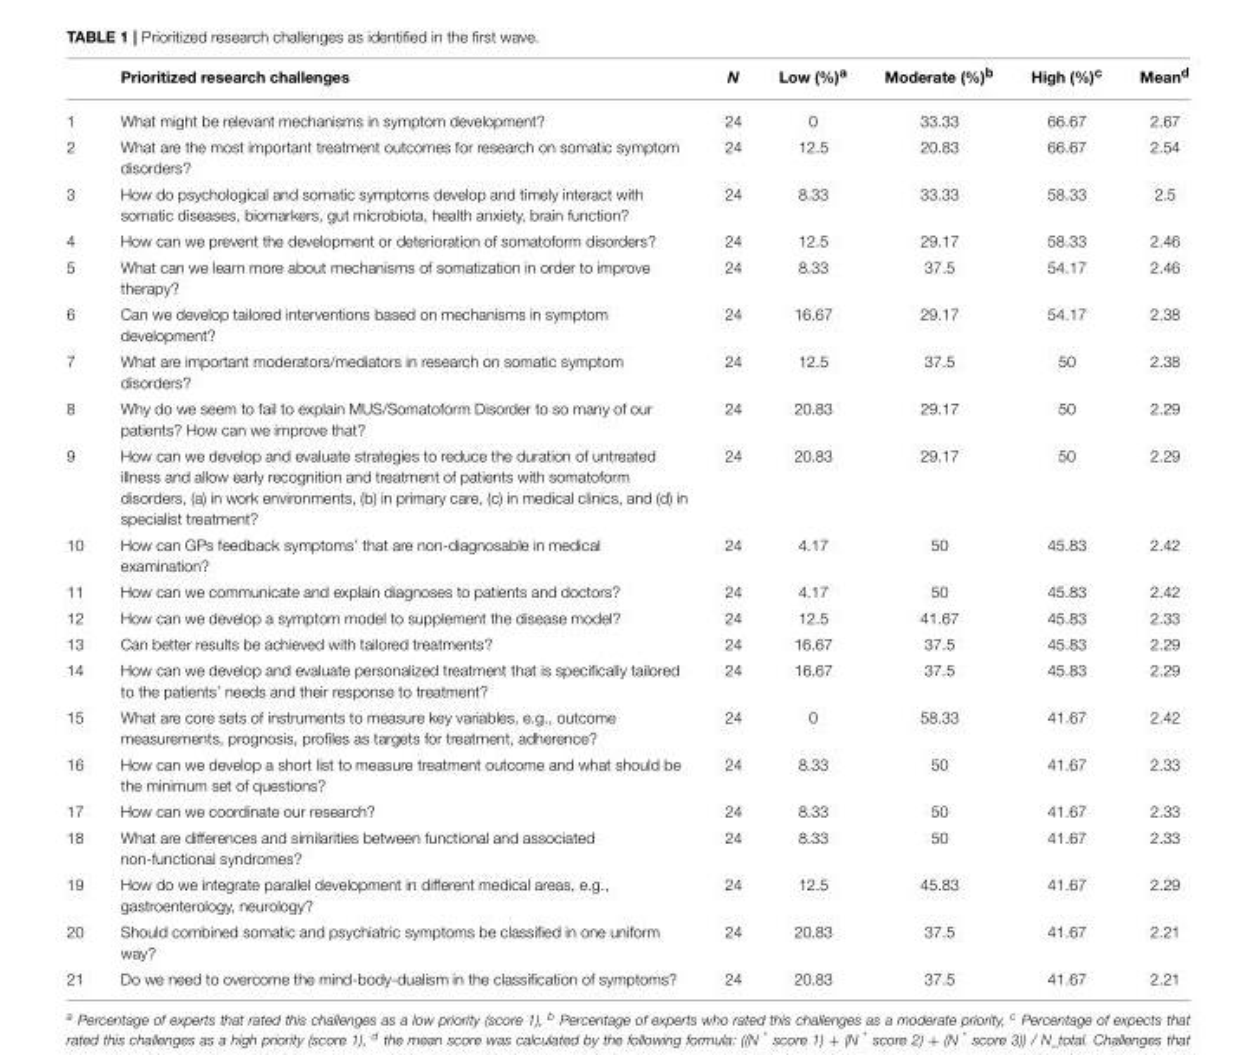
<table><thead><tr><td></td><td>Prioritized research challenges</td><td>N</td><td>Low (%)<sup>a</sup></td><td>Moderate (%)<sup>b</sup></td><td>High (%)<sup>c</sup></td><td>Mean<sup>d</sup></td></tr></thead><tbody><tr><td>1</td><td>What might be relevant mechanisms in symptom development?</td><td>24</td><td>0</td><td>33.33</td><td>66.67</td><td>2.67</td></tr><tr><td>2</td><td>What are the most important treatment outcomes for research on somatic symptom disorders?</td><td>24</td><td>12.5</td><td>20.83</td><td>66.67</td><td>2.54</td></tr><tr><td>3</td><td>How do psychological and somatic symptoms develop and timely interact with somatic diseases, biomarkers, gut microbiota, health anxiety, brain function?</td><td>24</td><td>8.33</td><td>33.33</td><td>58.33</td><td>2.5</td></tr><tr><td>4</td><td>How can we prevent the development or deterioration of somatoform disorders?</td><td>24</td><td>12.5</td><td>29.17</td><td>58.33</td><td>2.46</td></tr><tr><td>5</td><td>What can we learn more about mechanisms of somatization in order to improve therapy?</td><td>24</td><td>8.33</td><td>37.5</td><td>54.17</td><td>2.46</td></tr><tr><td>6</td><td>Can we develop tailored interventions based on mechanisms in symptom development?</td><td>24</td><td>16.67</td><td>29.17</td><td>54.17</td><td>2.38</td></tr><tr><td>7</td><td>What are important moderators/mediators in research on somatic symptom disorders?</td><td>24</td><td>12.5</td><td>37.5</td><td>50</td><td>2.38</td></tr><tr><td>8</td><td>Why do we seem to fail to explain MUS/Somatoform Disorder to so many of our patients? How can we improve that?</td><td>24</td><td>20.83</td><td>29.17</td><td>50</td><td>2.29</td></tr><tr><td>9</td><td>How can we develop and evaluate strategies to reduce the duration of untreated illness and allow early recognition and treatment of patients with somatoform disorders, (a) in work environments, (b) in primary care, (c) in medical clinics, and (d) in specialist treatment?</td><td>24</td><td>20.83</td><td>29.17</td><td>50</td><td>2.29</td></tr><tr><td>10</td><td>How can GPs feedback symptoms’ that are non-diagnosable in medical examination?</td><td>24</td><td>4.17</td><td>50</td><td>45.83</td><td>2.42</td></tr><tr><td>11</td><td>How can we communicate and explain diagnoses to patients and doctors?</td><td>24</td><td>4.17</td><td>50</td><td>45.83</td><td>2.42</td></tr><tr><td>12</td><td>How can we develop a symptom model to supplement the disease model?</td><td>24</td><td>12.5</td><td>41.67</td><td>45.83</td><td>2.33</td></tr><tr><td>13</td><td>Can better results be achieved with tailored treatments?</td><td>24</td><td>16.67</td><td>37.5</td><td>45.83</td><td>2.29</td></tr><tr><td>14</td><td>How can we develop and evaluate personalized treatment that is specifically tailored to the patients’ needs and their response to treatment?</td><td>24</td><td>16.67</td><td>37.5</td><td>45.83</td><td>2.29</td></tr><tr><td>15</td><td>What are core sets of instruments to measure key variables, e.g., outcome measurements, prognosis, profiles as targets for treatment, adherence?</td><td>24</td><td>0</td><td>58.33</td><td>41.67</td><td>2.42</td></tr><tr><td>16</td><td>How can we develop a short list to measure treatment outcome and what should be the minimum set of questions?</td><td>24</td><td>8.33</td><td>50</td><td>41.67</td><td>2.33</td></tr><tr><td>17</td><td>How can we coordinate our research?</td><td>24</td><td>8.33</td><td>50</td><td>41.67</td><td>2.33</td></tr><tr><td>18</td><td>What are differences and similarities between functional and associated non-functional syndromes?</td><td>24</td><td>8.33</td><td>50</td><td>41.67</td><td>2.33</td></tr><tr><td>19</td><td>How do we integrate parallel development in different medical areas, e.g., gastroenterology, neurology?</td><td>24</td><td>12.5</td><td>45.83</td><td>41.67</td><td>2.29</td></tr><tr><td>20</td><td>Should combined somatic and psychiatric symptoms be classified in one uniform way?</td><td>24</td><td>20.83</td><td>37.5</td><td>41.67</td><td>2.21</td></tr><tr><td>21</td><td>Do we need to overcome the mind-body-dualism in the classification of symptoms?</td><td>24</td><td>20.83</td><td>37.5</td><td>41.67</td><td>2.21</td></tr></tbody></table>